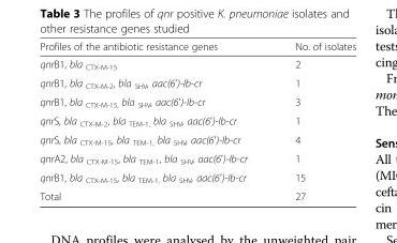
<table><thead><tr><td>Profiles of the antibiotic resistance genes</td><td>No. of isolates</td></tr></thead><tbody><tr><td>qnrB1, bla <sub>CTX-M-15</sub></td><td>2</td></tr><tr><td>qnrB1, bla <sub>CTX-M-2</sub>, bla <sub>SHV</sub>, aac(6′)-Ib-cr</td><td>1</td></tr><tr><td>qnrB1, bla <sub>CTX-M-15,</sub> bla <sub>SHV</sub>, aac(6′)-Ib-cr</td><td>3</td></tr><tr><td>qnrS, bla <sub>CTX-M-2</sub>, bla <sub>TEM-1,</sub> bla <sub>SHV</sub>, aac(6′)-Ib-cr</td><td>1</td></tr><tr><td>qnrS, bla <sub>CTX-M-15</sub>, bla <sub>TEM-1,</sub> bla <sub>SHV</sub>, aac(6′)-Ib-cr</td><td>4</td></tr><tr><td>qnrA2, bla <sub>CTX-M-15</sub>, bla <sub>TEM-1</sub>, bla <sub>SHV</sub>, aac(6′)-Ib-cr</td><td>1</td></tr><tr><td>qnrB1, bla <sub>CTX-M-15</sub>, bla <sub>TEM-1,</sub> bla <sub>SHV</sub>, aac(6′)-Ib-cr</td><td>15</td></tr><tr><td>Total</td><td>27</td></tr></tbody></table>